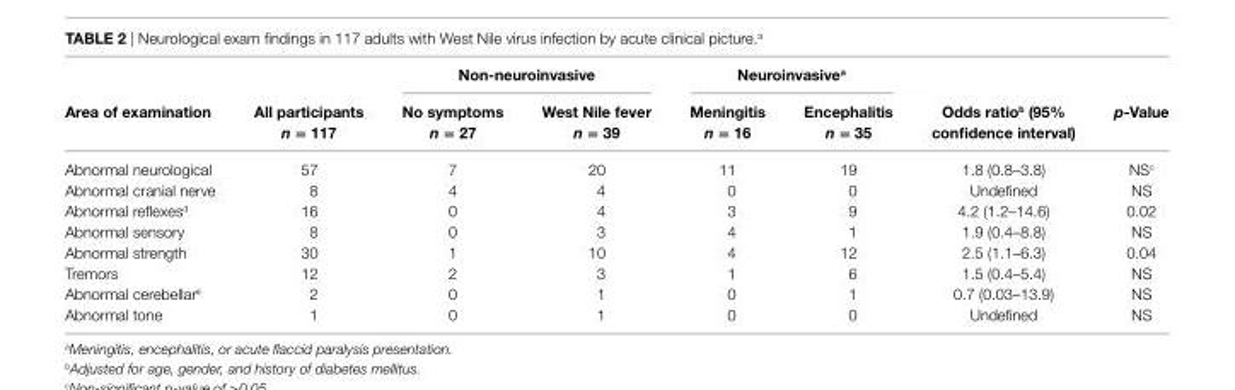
<table><thead><tr><td rowspan="2">area of examination</td><td rowspan="2">all participants n = 117</td><td colspan="2">non-neuroinvasive</td><td colspan="2">neuroinvasive<sup>a</sup></td><td rowspan="2">Odds ratio<sup>b</sup> (95% confidence interval)</td><td rowspan="2">p-Value</td></tr><tr><td>no symptoms n = 27</td><td>West nile fever n = 39</td><td>Meningitis n = 16</td><td>encephalitis n = 35</td></tr></thead><tbody><tr><td>Abnormal neurological</td><td>57</td><td>7</td><td>20</td><td>11</td><td>19</td><td>1.8 (0.8–3.8)</td><td>NS<sup>c</sup></td></tr><tr><td>Abnormal cranial nerve</td><td>8</td><td>4</td><td>4</td><td>0</td><td>0</td><td>Undefined</td><td>NS</td></tr><tr><td>Abnormal reflexes<sup>d</sup></td><td>16</td><td>0</td><td>4</td><td>3</td><td>9</td><td>4.2 (1.2–14.6)</td><td>0.02</td></tr><tr><td>Abnormal sensory</td><td>8</td><td>0</td><td>3</td><td>4</td><td>1</td><td>1.9 (0.4–8.8)</td><td>NS</td></tr><tr><td>Abnormal strength</td><td>30</td><td>1</td><td>10</td><td>4</td><td>12</td><td>2.5 (1.1–6.3)</td><td>0.04</td></tr><tr><td>Tremors</td><td>12</td><td>2</td><td>3</td><td>1</td><td>6</td><td>1.5 (0.4–5.4)</td><td>NS</td></tr><tr><td>Abnormal cerebellar<sup>e</sup></td><td>2</td><td>0</td><td>1</td><td>0</td><td>1</td><td>0.7 (0.03–13.9)</td><td>NS</td></tr><tr><td>Abnormal tone</td><td>1</td><td>0</td><td>1</td><td>0</td><td>0</td><td>Undefined</td><td>NS</td></tr></tbody></table>